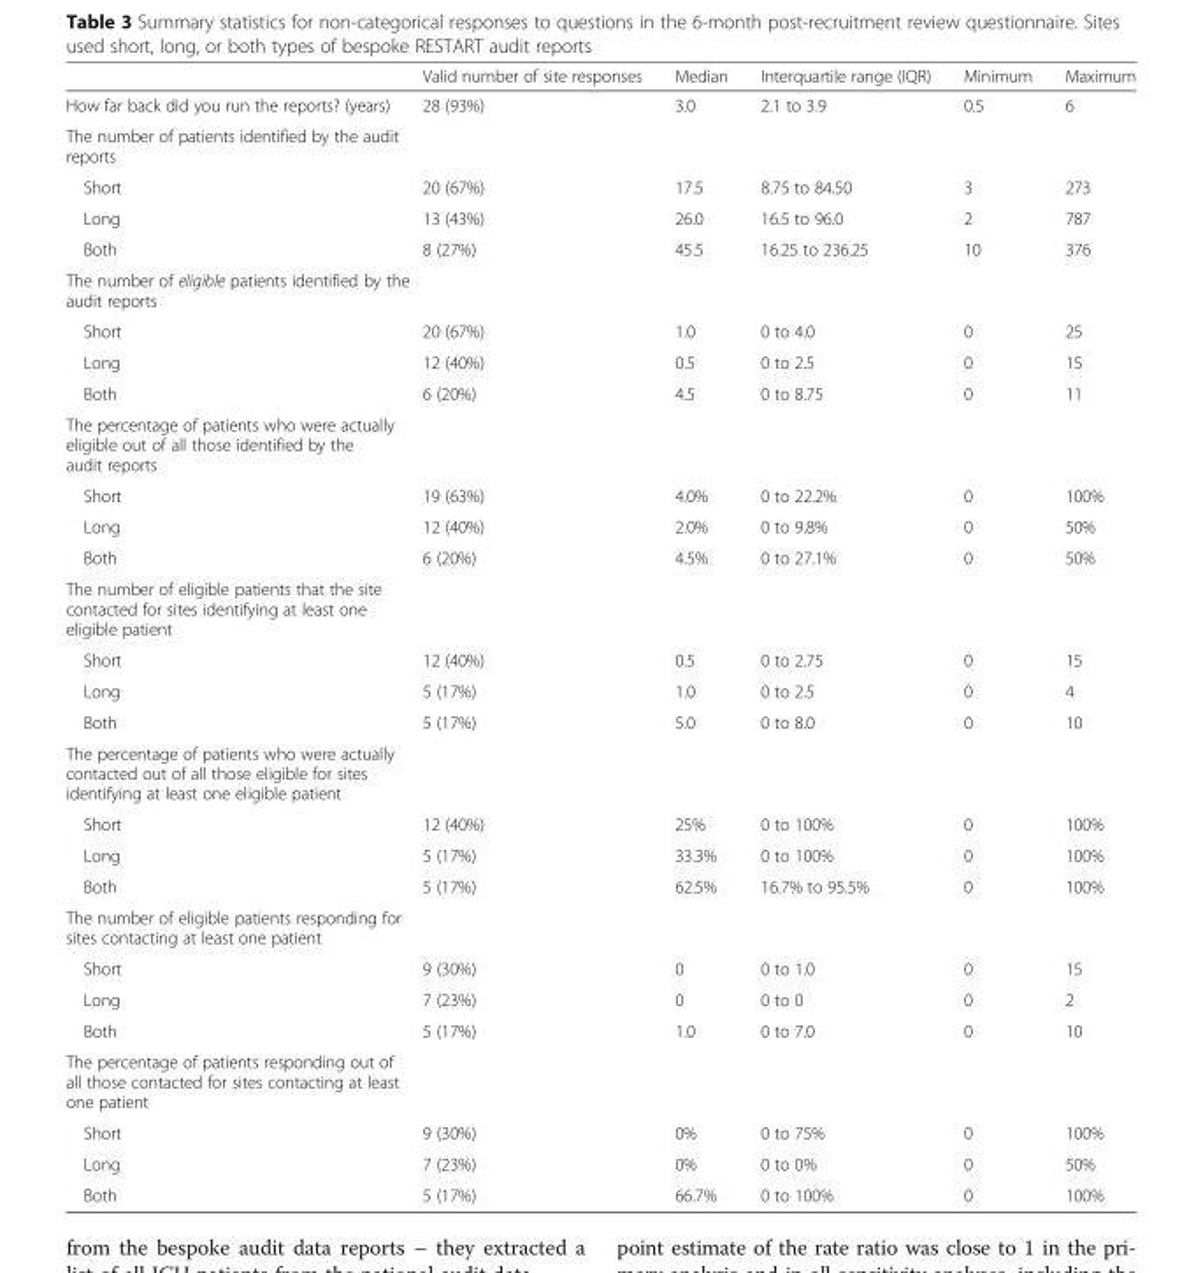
<table><thead><tr><td></td><td>Valid number of site responses</td><td>Median</td><td>Interquartile range (IQR)</td><td>Minimum</td><td>Maximum</td></tr></thead><tbody><tr><td>How far back did you run the reports? (years)</td><td>28 (93%)</td><td>3.0</td><td>2.1 to 3.9</td><td>0.5</td><td>6</td></tr><tr><td colspan="6">The number of patients identified by the audit reports</td></tr><tr><td>Short</td><td>20 (67%)</td><td>17.5</td><td>8.75 to 84.50</td><td>3</td><td>273</td></tr><tr><td>Long</td><td>13 (43%)</td><td>26.0</td><td>16.5 to 96.0</td><td>2</td><td>787</td></tr><tr><td>Both</td><td>8 (27%)</td><td>45.5</td><td>16.25 to 236.25</td><td>10</td><td>376</td></tr><tr><td colspan="6">The number of eligible patients identified by the audit reports</td></tr><tr><td>Short</td><td>20 (67%)</td><td>1.0</td><td>0 to 4.0</td><td>0</td><td>25</td></tr><tr><td>Long</td><td>12 (40%)</td><td>0.5</td><td>0 to 2.5</td><td>0</td><td>15</td></tr><tr><td>Both</td><td>6 (20%)</td><td>4.5</td><td>0 to 8.75</td><td>0</td><td>11</td></tr><tr><td colspan="6">The percentage of patients who were actually eligible out of all those identified by the audit reports</td></tr><tr><td>Short</td><td>19 (63%)</td><td>4.0%</td><td>0 to 22.2%</td><td>0</td><td>100%</td></tr><tr><td>Long</td><td>12 (40%)</td><td>2.0%</td><td>0 to 9.8%</td><td>0</td><td>50%</td></tr><tr><td>Both</td><td>6 (20%)</td><td>4.5%</td><td>0 to 27.1%</td><td>0</td><td>50%</td></tr><tr><td colspan="6">The number of eligible patients that the site contacted for sites identifying at least one eligible patient</td></tr><tr><td>Short</td><td>12 (40%)</td><td>0.5</td><td>0 to 2.75</td><td>0</td><td>15</td></tr><tr><td>Long</td><td>5 (17%)</td><td>1.0</td><td>0 to 2.5</td><td>0</td><td>4</td></tr><tr><td>Both</td><td>5 (17%)</td><td>5.0</td><td>0 to 8.0</td><td>0</td><td>10</td></tr><tr><td colspan="6">The percentage of patients who were actually contacted out of all those eligible for sites identifying at least one eligible patient</td></tr><tr><td>Short</td><td>12 (40%)</td><td>25%</td><td>0 to 100%</td><td>0</td><td>100%</td></tr><tr><td>Long</td><td>5 (17%)</td><td>33.3%</td><td>0 to 100%</td><td>0</td><td>100%</td></tr><tr><td>Both</td><td>5 (17%)</td><td>62.5%</td><td>16.7% to 95.5%</td><td>0</td><td>100%</td></tr><tr><td colspan="6">The number of eligible patients responding for sites contacting at least one patient</td></tr><tr><td>Short</td><td>9 (30%)</td><td>0</td><td>0 to 1.0</td><td>0</td><td>15</td></tr><tr><td>Long</td><td>7 (23%)</td><td>0</td><td>0 to 0</td><td>0</td><td>2</td></tr><tr><td>Both</td><td>5 (17%)</td><td>1.0</td><td>0 to 7.0</td><td>0</td><td>10</td></tr><tr><td colspan="6">The percentage of patients responding out of all those contacted for sites contacting at least one patient</td></tr><tr><td>Short</td><td>9 (30%)</td><td>0%</td><td>0 to 75%</td><td>0</td><td>100%</td></tr><tr><td>Long</td><td>7 (23%)</td><td>0%</td><td>0 to 0%</td><td>0</td><td>50%</td></tr><tr><td>Both</td><td>5 (17%)</td><td>66.7%</td><td>0 to 100%</td><td>0</td><td>100%</td></tr></tbody></table>